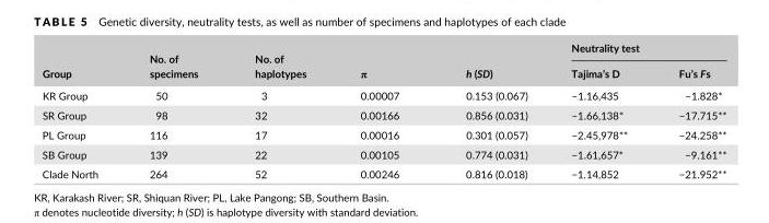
<table><thead><tr><td rowspan="2">Group</td><td rowspan="2">No. of specimens</td><td rowspan="2">No. of haplotypes</td><td rowspan="2">π</td><td rowspan="2">h (SD)</td><td colspan="2">Neutrality test</td></tr><tr><td>Tajima’s D</td><td>Fu’s Fs</td></tr></thead><tbody><tr><td>KR Group</td><td>50</td><td>3</td><td>0.00007</td><td>0.153 (0.067)</td><td>−1.16,435</td><td>−1.828*</td></tr><tr><td>SR Group</td><td>98</td><td>32</td><td>0.00166</td><td>0.856 (0.031)</td><td>−1.66,138*</td><td>−17.715**</td></tr><tr><td>PL Group</td><td>116</td><td>17</td><td>0.00016</td><td>0.301 (0.057)</td><td>−2.45,978**</td><td>−24.258**</td></tr><tr><td>SB Group</td><td>139</td><td>22</td><td>0.00105</td><td>0.774 (0.031)</td><td>−1.61,657*</td><td>−9.161**</td></tr><tr><td>Clade North</td><td>264</td><td>52</td><td>0.00246</td><td>0.816 (0.018)</td><td>−1.14,852</td><td>−21.952**</td></tr></tbody></table>